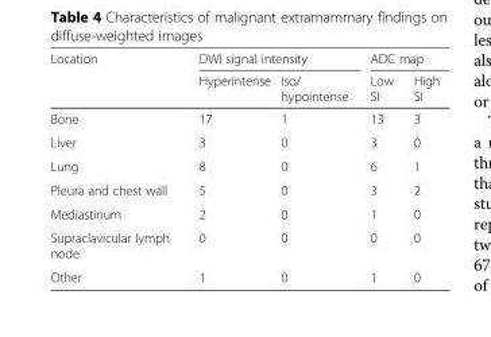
<table><thead><tr><td rowspan="2">Location</td><td colspan="2">DWI signal intensity</td><td colspan="2">ADC map</td></tr><tr><td>Hyperintense</td><td>Iso/ hypointense</td><td>Low SI</td><td>High SI</td></tr></thead><tbody><tr><td>Bone</td><td>17</td><td>1</td><td>13</td><td>3</td></tr><tr><td>Liver</td><td>3</td><td>0</td><td>3</td><td>0</td></tr><tr><td>Lung</td><td>8</td><td>0</td><td>6</td><td>1</td></tr><tr><td>Pleura and chest wall</td><td>5</td><td>0</td><td>3</td><td>2</td></tr><tr><td>Mediastinum</td><td>2</td><td>0</td><td>1</td><td>0</td></tr><tr><td>Supraclavicular lymph node</td><td>0</td><td>0</td><td>0</td><td>0</td></tr><tr><td>Other</td><td>1</td><td>0</td><td>1</td><td>0</td></tr></tbody></table>